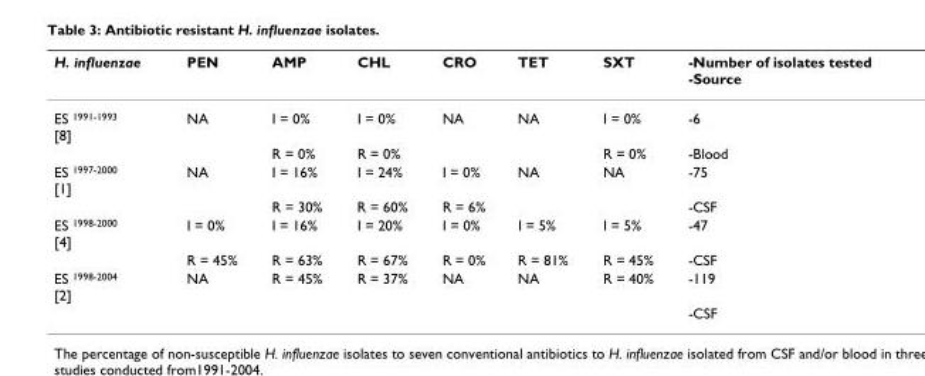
<table><thead><tr><td>H. influenzae</td><td>PEN</td><td>AMP</td><td>CHL</td><td>CRO</td><td>TET</td><td>SXT</td><td>-Number of isolates tested -Source</td></tr></thead><tbody><tr><td rowspan="2">ES <sup>1991-1993</sup> [8]</td><td>NA</td><td>I = 0%</td><td>I = 0%</td><td>NA</td><td>NA</td><td>I = 0%</td><td>-6</td></tr><tr><td></td><td>R = 0%</td><td>R = 0%</td><td></td><td></td><td>R = 0%</td><td>-Blood</td></tr><tr><td rowspan="2">ES <sup>1997-2000</sup> [1]</td><td>NA</td><td>I = 16%</td><td>I = 24%</td><td>I = 0%</td><td>NA</td><td>NA</td><td>-75</td></tr><tr><td></td><td>R = 30%</td><td>R = 60%</td><td>R = 6%</td><td></td><td></td><td>-CSF</td></tr><tr><td rowspan="2">ES <sup>1998-2000</sup> [4]</td><td>I = 0%</td><td>I = 16%</td><td>I = 20%</td><td>I = 0%</td><td>I = 5%</td><td>I = 5%</td><td>-47</td></tr><tr><td>R = 45%</td><td>R = 63%</td><td>R = 67%</td><td>R = 0%</td><td>R = 81%</td><td>R = 45%</td><td>-CSF</td></tr><tr><td rowspan="2">ES <sup>1998-2004</sup> [2]</td><td>NA</td><td>R = 45%</td><td>R = 37%</td><td>NA</td><td>NA</td><td>R = 40%</td><td>-119</td></tr><tr><td></td><td></td><td></td><td></td><td></td><td></td><td>-CSF</td></tr></tbody></table>